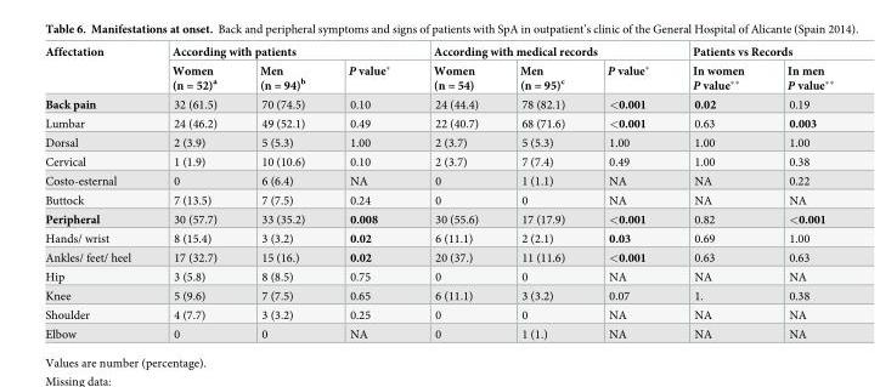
<table><thead><tr><td rowspan="2">Affectation</td><td colspan="3">According with patients</td><td colspan="3">According with medical records</td><td colspan="2">Patients vs Records</td></tr><tr><td>Women (n = 52)<sup>a</sup></td><td>Men (n = 94)<sup>b</sup></td><td>P value*</td><td>Women (n = 54)</td><td>Men (n = 95)<sup>c</sup></td><td>P value*</td><td>In women P value**</td><td>In men P value**</td></tr></thead><tbody><tr><td>Back pain</td><td>32 (61.5)</td><td>70 (74.5)</td><td>0.10</td><td>24 (44.4)</td><td>78 (82.1)</td><td>&lt;0.001</td><td>0.02</td><td>0.19</td></tr><tr><td>Lumbar</td><td>24 (46.2)</td><td>49 (52.1)</td><td>0.49</td><td>22 (40.7)</td><td>68 (71.6)</td><td>&lt;0.001</td><td>0.63</td><td>0.003</td></tr><tr><td>Dorsal</td><td>2 (3.9)</td><td>5 (5.3)</td><td>1.00</td><td>2 (3.7)</td><td>5 (5.3)</td><td>1.00</td><td>1.00</td><td>1.00</td></tr><tr><td>Cervical</td><td>1 (1.9)</td><td>10 (10.6)</td><td>0.10</td><td>2 (3.7)</td><td>7 (7.4)</td><td>0.49</td><td>1.00</td><td>0.38</td></tr><tr><td>Costo-esternal</td><td>0</td><td>6 (6.4)</td><td>NA</td><td>0</td><td>1 (1.1)</td><td>NA</td><td>NA</td><td>0.22</td></tr><tr><td>Buttock</td><td>7 (13.5)</td><td>7 (7.5)</td><td>0.24</td><td>0</td><td>0</td><td>NA</td><td>NA</td><td>NA</td></tr><tr><td>Peripheral</td><td>30 (57.7)</td><td>33 (35.2)</td><td>0.008</td><td>30 (55.6)</td><td>17 (17.9)</td><td>&lt;0.001</td><td>0.82</td><td>&lt;0.001</td></tr><tr><td>Hands/ wrist</td><td>8 (15.4)</td><td>3 (3.2)</td><td>0.02</td><td>6 (11.1)</td><td>2 (2.1)</td><td>0.03</td><td>0.69</td><td>1.00</td></tr><tr><td>Ankles/ feet/ heel</td><td>17 (32.7)</td><td>15 (16.)</td><td>0.02</td><td>20 (37.)</td><td>11 (11.6)</td><td>&lt;0.001</td><td>0.63</td><td>0.63</td></tr><tr><td>Hip</td><td>3 (5.8)</td><td>8 (8.5)</td><td>0.75</td><td>0</td><td>0</td><td>NA</td><td>NA</td><td>NA</td></tr><tr><td>Knee</td><td>5 (9.6)</td><td>7 (7.5)</td><td>0.65</td><td>6 (11.1)</td><td>3 (3.2)</td><td>0.07</td><td>1.</td><td>0.38</td></tr><tr><td>Shoulder</td><td>4 (7.7)</td><td>3 (3.2)</td><td>0.25</td><td>0</td><td>0</td><td>NA</td><td>NA</td><td>NA</td></tr><tr><td>Elbow</td><td>0</td><td>0</td><td>NA</td><td>0</td><td>1 (1.)</td><td>NA</td><td>NA</td><td>NA</td></tr></tbody></table>